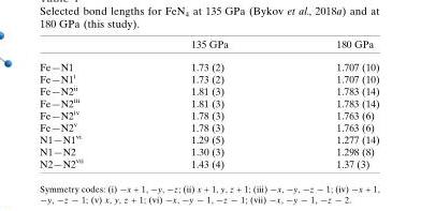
<table><thead><tr><td></td><td>135 GPa</td><td>180 GPa</td></tr></thead><tbody><tr><td>Fe—N1</td><td>1.73 (2)</td><td>1.707 (10)</td></tr><tr><td>Fe—N1<sup>i</sup></td><td>1.73 (2)</td><td>1.707 (10)</td></tr><tr><td>Fe—N2<sup>ii</sup></td><td>1.81 (3)</td><td>1.783 (14)</td></tr><tr><td>Fe—N2<sup>iii</sup></td><td>1.81 (3)</td><td>1.783 (14)</td></tr><tr><td>Fe—N2<sup>iv</sup></td><td>1.78 (3)</td><td>1.763 (6)</td></tr><tr><td>Fe—N2<sup>v</sup></td><td>1.78 (3)</td><td>1.763 (6)</td></tr><tr><td>N1—N1<sup>vi</sup></td><td>1.29 (5)</td><td>1.277 (14)</td></tr><tr><td>N1—N2</td><td>1.30 (3)</td><td>1.298 (8)</td></tr><tr><td>N2—N2<sup>vii</sup></td><td>1.43 (4)</td><td>1.37 (3)</td></tr></tbody></table>